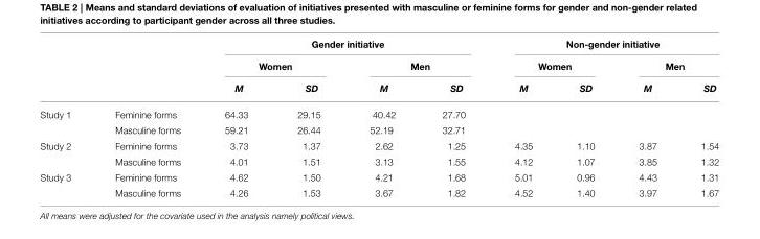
<table><thead><tr><td rowspan="3"></td><td rowspan="3"></td><td colspan="4">Gender initiative</td><td colspan="4">Non-gender initiative</td></tr><tr><td colspan="2">Women</td><td colspan="2">Men</td><td colspan="2">Women</td><td colspan="2">Men</td></tr><tr><td>M</td><td>SD</td><td>M</td><td>SD</td><td>M</td><td>SD</td><td>M</td><td>SD</td></tr></thead><tbody><tr><td rowspan="2">Study 1</td><td>Feminine forms</td><td>64.33</td><td>29.15</td><td>40.42</td><td>27.70</td><td></td><td></td><td></td><td></td></tr><tr><td>Masculine forms</td><td>59.21</td><td>26.44</td><td>52.19</td><td>32.71</td><td></td><td></td><td></td><td></td></tr><tr><td rowspan="2">Study 2</td><td>Feminine forms</td><td>3.73</td><td>1.37</td><td>2.62</td><td>1.25</td><td>4.35</td><td>1.10</td><td>3.87</td><td>1.54</td></tr><tr><td>Masculine forms</td><td>4.01</td><td>1.51</td><td>3.13</td><td>1.55</td><td>4.12</td><td>1.07</td><td>3.85</td><td>1.32</td></tr><tr><td rowspan="2">Study 3</td><td>Feminine forms</td><td>4.62</td><td>1.50</td><td>4.21</td><td>1.68</td><td>5.01</td><td>0.96</td><td>4.43</td><td>1.31</td></tr><tr><td>Masculine forms</td><td>4.26</td><td>1.53</td><td>3.67</td><td>1.82</td><td>4.52</td><td>1.40</td><td>3.97</td><td>1.67</td></tr></tbody></table>